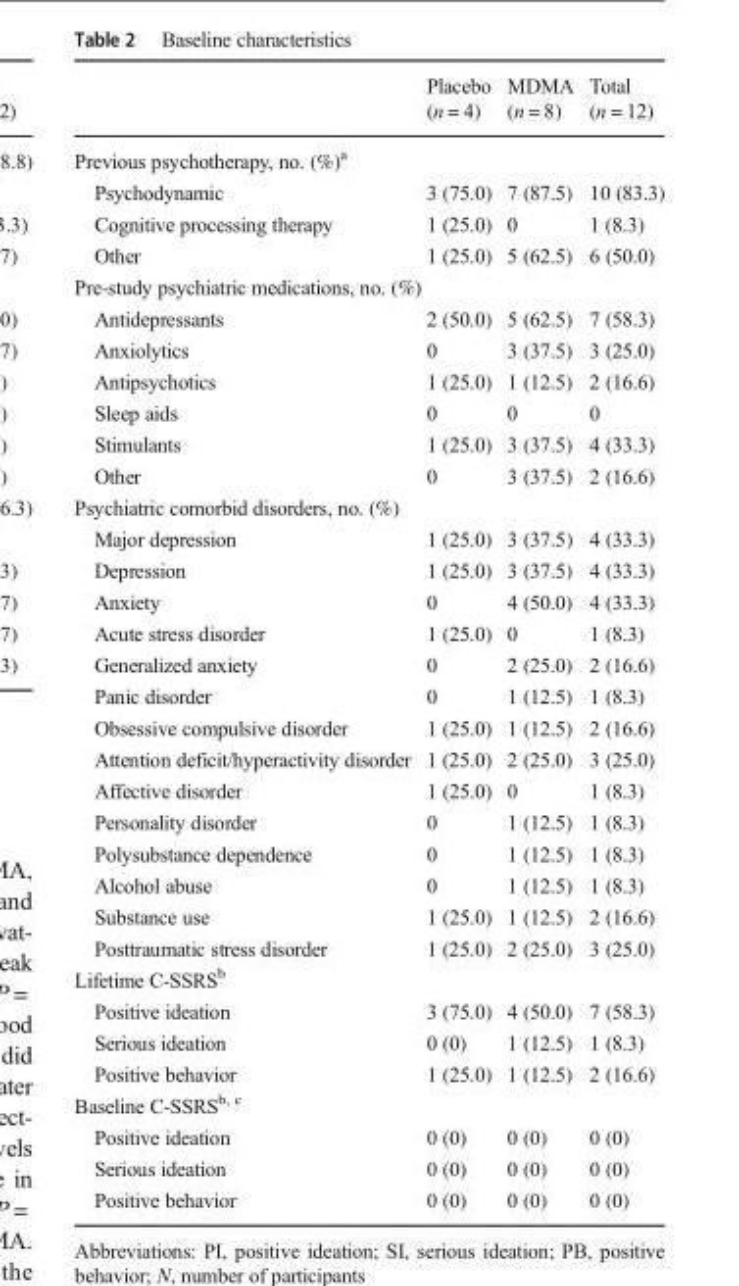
<table><thead><tr><td></td><td>Placebo (n = 4)</td><td>MDMA (n = 8)</td><td>Total (n = 12)</td></tr></thead><tbody><tr><td colspan="4">Previous psychotherapy, no. (%)<sup>a</sup></td></tr><tr><td>Psychodynamic</td><td>3 (75.0)</td><td>7 (87.5)</td><td>10 (83.3)</td></tr><tr><td>Cognitive processing therapy</td><td>1 (25.0)</td><td>0</td><td>1 (8.3)</td></tr><tr><td>Other</td><td>1 (25.0)</td><td>5 (62.5)</td><td>6 (50.0)</td></tr><tr><td colspan="4">Pre-study psychiatric medications, no. (%)</td></tr><tr><td>Antidepressants</td><td>2 (50.0)</td><td>5 (62.5)</td><td>7 (58.3)</td></tr><tr><td>Anxiolytics</td><td>0</td><td>3 (37.5)</td><td>3 (25.0)</td></tr><tr><td>Antipsychotics</td><td>1 (25.0)</td><td>1 (12.5)</td><td>2 (16.6)</td></tr><tr><td>Sleep aids</td><td>0</td><td>0</td><td>0</td></tr><tr><td>Stimulants</td><td>1 (25.0)</td><td>3 (37.5)</td><td>4 (33.3)</td></tr><tr><td>Other</td><td>0</td><td>3 (37.5)</td><td>2 (16.6)</td></tr><tr><td colspan="4">Psychiatric comorbid disorders, no. (%)</td></tr><tr><td>Major depression</td><td>1 (25.0)</td><td>3 (37.5)</td><td>4 (33.3)</td></tr><tr><td>Depression</td><td>1 (25.0)</td><td>3 (37.5)</td><td>4 (33.3)</td></tr><tr><td>Anxiety</td><td>0</td><td>4 (50.0)</td><td>4 (33.3)</td></tr><tr><td>Acute stress disorder</td><td>1 (25.0)</td><td>0</td><td>1 (8.3)</td></tr><tr><td>Generalized anxiety</td><td>0</td><td>2 (25.0)</td><td>2 (16.6)</td></tr><tr><td>Panic disorder</td><td>0</td><td>1 (12.5)</td><td>1 (8.3)</td></tr><tr><td>Obsessive compulsive disorder</td><td>1 (25.0)</td><td>1 (12.5)</td><td>2 (16.6)</td></tr><tr><td>Attention deficit/hyperactivity disorder</td><td>1 (25.0)</td><td>2 (25.0)</td><td>3 (25.0)</td></tr><tr><td>Affective disorder</td><td>1 (25.0)</td><td>0</td><td>1 (8.3)</td></tr><tr><td>Personality disorder</td><td>0</td><td>1 (12.5)</td><td>1 (8.3)</td></tr><tr><td>Polysubstance dependence</td><td>0</td><td>1 (12.5)</td><td>1 (8.3)</td></tr><tr><td>Alcohol abuse</td><td>0</td><td>1 (12.5)</td><td>1 (8.3)</td></tr><tr><td>Substance use</td><td>1 (25.0)</td><td>1 (12.5)</td><td>2 (16.6)</td></tr><tr><td>Posttraumatic stress disorder</td><td>1 (25.0)</td><td>2 (25.0)</td><td>3 (25.0)</td></tr><tr><td colspan="4">Lifetime C-SSRS<sup>b</sup></td></tr><tr><td>Positive ideation</td><td>3 (75.0)</td><td>4 (50.0)</td><td>7 (58.3)</td></tr><tr><td>Serious ideation</td><td>0 (0)</td><td>1 (12.5)</td><td>1 (8.3)</td></tr><tr><td>Positive behavior</td><td>1 (25.0)</td><td>1 (12.5)</td><td>2 (16.6)</td></tr><tr><td colspan="4">Baseline C-SSRS<sup>b, c</sup></td></tr><tr><td>Positive ideation</td><td>0 (0)</td><td>0 (0)</td><td>0 (0)</td></tr><tr><td>Serious ideation</td><td>0 (0)</td><td>0 (0)</td><td>0 (0)</td></tr><tr><td>Positive behavior</td><td>0 (0)</td><td>0 (0)</td><td>0 (0)</td></tr></tbody></table>